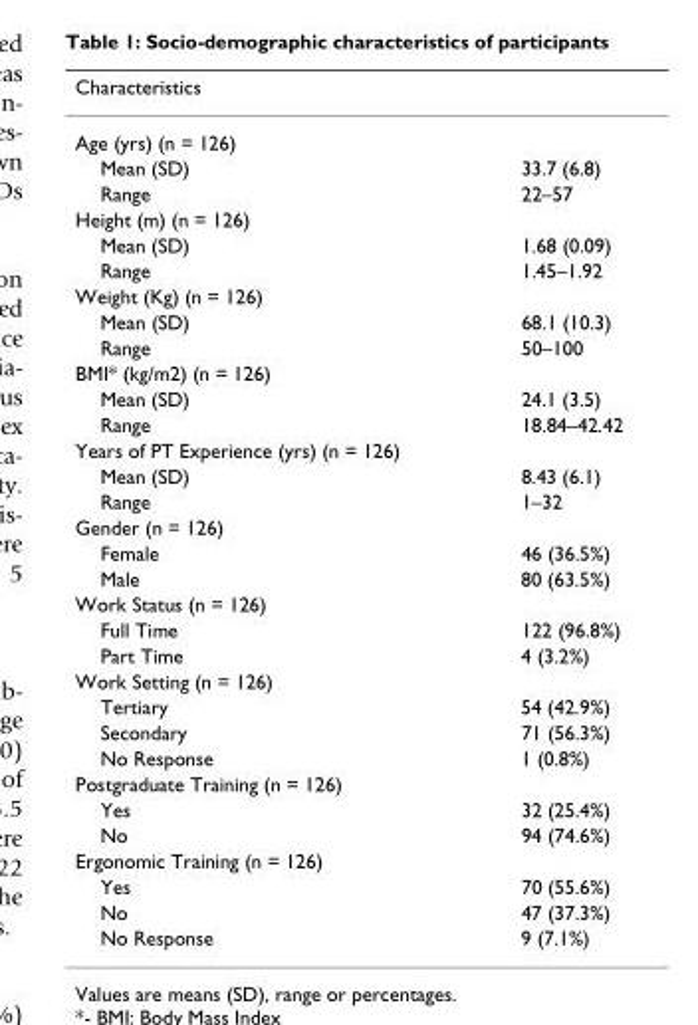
<table><thead><tr><td>Characteristics</td><td></td></tr></thead><tbody><tr><td colspan="2">Age (yrs) (n = 126)</td></tr><tr><td>Mean (SD)</td><td>33.7 (6.8)</td></tr><tr><td>Range</td><td>22–57</td></tr><tr><td colspan="2">Height (m) (n = 126)</td></tr><tr><td>Mean (SD)</td><td>1.68 (0.09)</td></tr><tr><td>Range</td><td>1.45–1.92</td></tr><tr><td colspan="2">Weight (Kg) (n = 126)</td></tr><tr><td>Mean (SD)</td><td>68.1 (10.3)</td></tr><tr><td>Range</td><td>50–100</td></tr><tr><td colspan="2">BMI* (kg/m2) (n = 126)</td></tr><tr><td>Mean (SD)</td><td>24.1 (3.5)</td></tr><tr><td>Range</td><td>18.84–42.42</td></tr><tr><td colspan="2">Years of PT Experience (yrs) (n = 126)</td></tr><tr><td>Mean (SD)</td><td>8.43 (6.1)</td></tr><tr><td>Range</td><td>1–32</td></tr><tr><td colspan="2">Gender (n = 126)</td></tr><tr><td>Female</td><td>46 (36.5%)</td></tr><tr><td>Male</td><td>80 (63.5%)</td></tr><tr><td colspan="2">Work Status (n = 126)</td></tr><tr><td>Full Time</td><td>122 (96.8%)</td></tr><tr><td>Part Time</td><td>4 (3.2%)</td></tr><tr><td colspan="2">Work Setting (n = 126)</td></tr><tr><td>Tertiary</td><td>54 (42.9%)</td></tr><tr><td>Secondary</td><td>71 (56.3%)</td></tr><tr><td>No Response</td><td>1 (0.8%)</td></tr><tr><td colspan="2">Postgraduate Training (n = 126)</td></tr><tr><td>Yes</td><td>32 (25.4%)</td></tr><tr><td>No</td><td>94 (74.6%)</td></tr><tr><td colspan="2">Ergonomic Training (n = 126)</td></tr><tr><td>Yes</td><td>70 (55.6%)</td></tr><tr><td>No</td><td>47 (37.3%)</td></tr><tr><td>No Response</td><td>9 (7.1%)</td></tr></tbody></table>